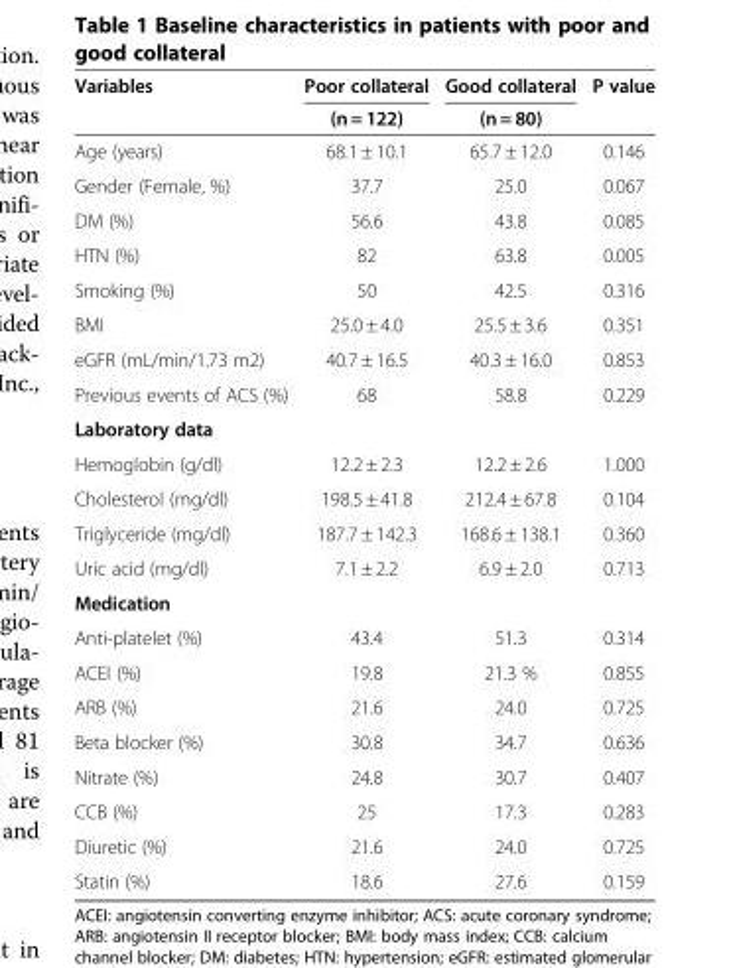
<table><thead><tr><td rowspan="2">Variables</td><td rowspan="2">Poor collateral (n = 122)</td><td rowspan="2">Good collateral (n = 80)</td><td rowspan="2">P value</td></tr><tr></tr></thead><tbody><tr><td>Age (years)</td><td>68.1 ± 10.1</td><td>65.7 ± 12.0</td><td>0.146</td></tr><tr><td>Gender (Female, %)</td><td>37.7</td><td>25.0</td><td>0.067</td></tr><tr><td>DM (%)</td><td>56.6</td><td>43.8</td><td>0.085</td></tr><tr><td>HTN (%)</td><td>82</td><td>63.8</td><td>0.005</td></tr><tr><td>Smoking (%)</td><td>50</td><td>42.5</td><td>0.316</td></tr><tr><td>BMI</td><td>25.0 ± 4.0</td><td>25.5 ± 3.6</td><td>0.351</td></tr><tr><td>eGFR (mL/min/1.73 m2)</td><td>40.7 ± 16.5</td><td>40.3 ± 16.0</td><td>0.853</td></tr><tr><td>Previous events of ACS (%)</td><td>68</td><td>58.8</td><td>0.229</td></tr><tr><td colspan="4">Laboratory data</td></tr><tr><td>Hemoglobin (g/dl)</td><td>12.2 ± 2.3</td><td>12.2 ± 2.6</td><td>1.000</td></tr><tr><td>Cholesterol (mg/dl)</td><td>198.5 ± 41.8</td><td>212.4 ± 67.8</td><td>0.104</td></tr><tr><td>Triglyceride (mg/dl)</td><td>187.7 ± 142.3</td><td>168.6 ± 138.1</td><td>0.360</td></tr><tr><td>Uric acid (mg/dl)</td><td>7.1 ± 2.2</td><td>6.9 ± 2.0</td><td>0.713</td></tr><tr><td colspan="4">Medication</td></tr><tr><td>Anti-platelet (%)</td><td>43.4</td><td>51.3</td><td>0.314</td></tr><tr><td>ACEI (%)</td><td>19.8</td><td>21.3 %</td><td>0.855</td></tr><tr><td>ARB (%)</td><td>21.6</td><td>24.0</td><td>0.725</td></tr><tr><td>Beta blocker (%)</td><td>30.8</td><td>34.7</td><td>0.636</td></tr><tr><td>Nitrate (%)</td><td>24.8</td><td>30.7</td><td>0.407</td></tr><tr><td>CCB (%)</td><td>25</td><td>17.3</td><td>0.283</td></tr><tr><td>Diuretic (%)</td><td>21.6</td><td>24.0</td><td>0.725</td></tr><tr><td>Statin (%)</td><td>18.6</td><td>27.6</td><td>0.159</td></tr></tbody></table>